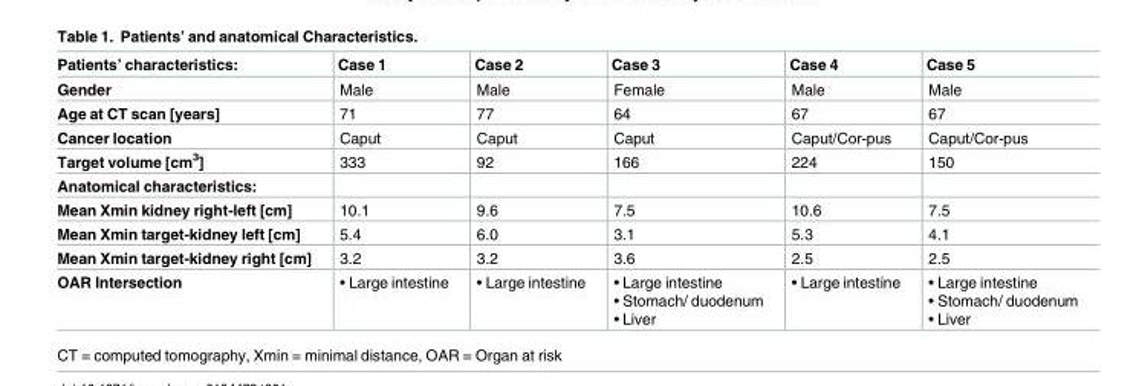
<table><thead><tr><td>Patients’ characteristics:</td><td>Case 1</td><td>Case 2</td><td>Case 3</td><td>Case 4</td><td>Case 5</td></tr></thead><tbody><tr><td>Gender</td><td>Male</td><td>Male</td><td>Female</td><td>Male</td><td>Male</td></tr><tr><td>Age at CT scan [years]</td><td>71</td><td>77</td><td>64</td><td>67</td><td>67</td></tr><tr><td>Cancer location</td><td>Caput</td><td>Caput</td><td>Caput</td><td>Caput/Cor-pus</td><td>Caput/Cor-pus</td></tr><tr><td>Target volume [cm<sup>3</sup>]</td><td>333</td><td>92</td><td>166</td><td>224</td><td>150</td></tr><tr><td colspan="6">Anatomical characteristics:</td></tr><tr><td>Mean Xmin kidney right-left [cm]</td><td>10.1</td><td>9.6</td><td>7.5</td><td>10.6</td><td>7.5</td></tr><tr><td>Mean Xmin target-kidney left [cm]</td><td>5.4</td><td>6.0</td><td>3.1</td><td>5.3</td><td>4.1</td></tr><tr><td>Mean Xmin target-kidney right [cm]</td><td>3.2</td><td>3.2</td><td>3.6</td><td>2.5</td><td>2.5</td></tr><tr><td>OAR Intersection</td><td>• Large intestine</td><td>• Large intestine</td><td>• Large intestine • Stomach/ duodenum • Liver</td><td>• Large intestine</td><td>• Large intestine • Stomach/ duodenum • Liver</td></tr></tbody></table>